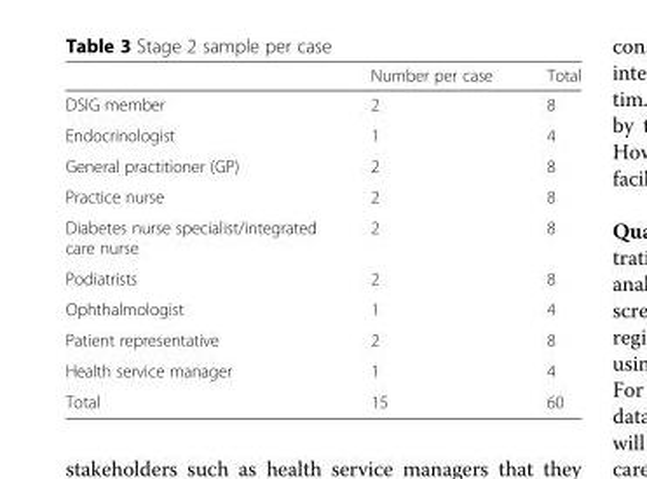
<table><thead><tr><td></td><td>Number per case</td><td>Total</td></tr></thead><tbody><tr><td>DSIG member</td><td>2</td><td>8</td></tr><tr><td>Endocrinologist</td><td>1</td><td>4</td></tr><tr><td>General practitioner (GP)</td><td>2</td><td>8</td></tr><tr><td>Practice nurse</td><td>2</td><td>8</td></tr><tr><td>Diabetes nurse specialist/integrated care nurse</td><td>2</td><td>8</td></tr><tr><td>Podiatrists</td><td>2</td><td>8</td></tr><tr><td>Ophthalmologist</td><td>1</td><td>4</td></tr><tr><td>Patient representative</td><td>2</td><td>8</td></tr><tr><td>Health service manager</td><td>1</td><td>4</td></tr><tr><td>Total</td><td>15</td><td>60</td></tr></tbody></table>